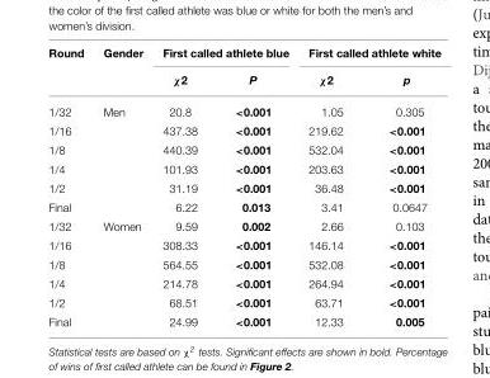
<table><thead><tr><td rowspan="2">Round</td><td rowspan="2">Gender</td><td colspan="2">First called athlete blue</td><td colspan="2">First called athlete white</td></tr><tr><td>χ2</td><td>P</td><td>χ2</td><td>p</td></tr></thead><tbody><tr><td>1/32</td><td>Men</td><td>20.8</td><td>&lt;0.001</td><td>1.05</td><td>0.305</td></tr><tr><td>1/16</td><td></td><td>437.38</td><td>&lt;0.001</td><td>219.62</td><td>&lt;0.001</td></tr><tr><td>1/8</td><td></td><td>440.39</td><td>&lt;0.001</td><td>532.04</td><td>&lt;0.001</td></tr><tr><td>1/4</td><td></td><td>101.93</td><td>&lt;0.001</td><td>203.63</td><td>&lt;0.001</td></tr><tr><td>1/2</td><td></td><td>31.19</td><td>&lt;0.001</td><td>36.48</td><td>&lt;0.001</td></tr><tr><td>Final</td><td></td><td>6.22</td><td>0.013</td><td>3.41</td><td>0.0647</td></tr><tr><td>1/32</td><td>Women</td><td>9.59</td><td>0.002</td><td>2.66</td><td>0.103</td></tr><tr><td>1/16</td><td></td><td>308.33</td><td>&lt;0.001</td><td>146.14</td><td>&lt;0.001</td></tr><tr><td>1/8</td><td></td><td>564.55</td><td>&lt;0.001</td><td>532.08</td><td>&lt;0.001</td></tr><tr><td>1/4</td><td></td><td>214.78</td><td>&lt;0.001</td><td>264.94</td><td>&lt;0.001</td></tr><tr><td>1/2</td><td></td><td>68.51</td><td>&lt;0.001</td><td>63.71</td><td>&lt;0.001</td></tr><tr><td>Final</td><td></td><td>24.99</td><td>&lt;0.001</td><td>12.33</td><td>0.005</td></tr></tbody></table>